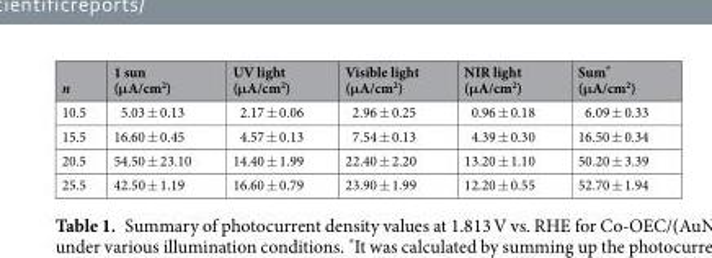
<table><thead><tr><td>n</td><td>1 sun (μA/cm<sup>2</sup>)</td><td>UV light (μA/cm<sup>2</sup>)</td><td>Visible light (μA/cm<sup>2</sup>)</td><td>NIR light (μA/cm<sup>2</sup>)</td><td>Sum* (μA/cm<sup>2</sup>)</td></tr></thead><tbody><tr><td>10.5</td><td>5.03 ± 0.13</td><td>2.17 ± 0.06</td><td>2.96 ± 0.25</td><td>0.96 ± 0.18</td><td>6.09 ± 0.33</td></tr><tr><td>15.5</td><td>16.60 ± 0.45</td><td>4.57 ± 0.13</td><td>7.54 ± 0.13</td><td>4.39 ± 0.30</td><td>16.50 ± 0.34</td></tr><tr><td>20.5</td><td>54.50 ± 23.10</td><td>14.40 ± 1.99</td><td>22.40 ± 2.20</td><td>13.20 ± 1.10</td><td>50.20 ± 3.39</td></tr><tr><td>25.5</td><td>42.50 ± 1.19</td><td>16.60 ± 0.79</td><td>23.90 ± 1.99</td><td>12.20 ± 0.55</td><td>52.70 ± 1.94</td></tr></tbody></table>